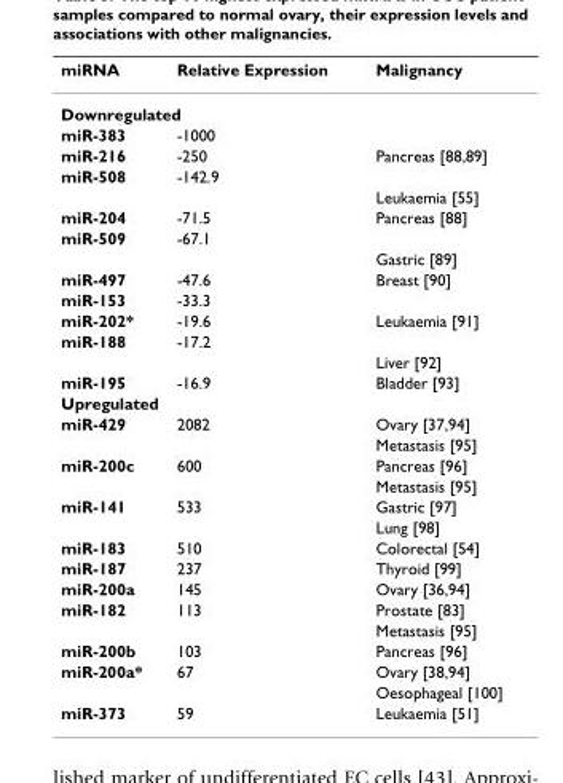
<table><thead><tr><td>miRNA</td><td>Relative Expression</td><td>Malignancy</td></tr></thead><tbody><tr><td colspan="3">Downregulated</td></tr><tr><td>miR-383</td><td>-1000</td><td></td></tr><tr><td>miR-216</td><td>-250</td><td>Pancreas [88,89]</td></tr><tr><td rowspan="2">miR-508</td><td>-142.9</td><td></td></tr><tr><td></td><td>Leukaemia [55]</td></tr><tr><td>miR-204</td><td>-71.5</td><td>Pancreas [88]</td></tr><tr><td rowspan="2">miR-509</td><td>-67.1</td><td></td></tr><tr><td></td><td>Gastric [89]</td></tr><tr><td>miR-497</td><td>-47.6</td><td>Breast [90]</td></tr><tr><td>miR-153</td><td>-33.3</td><td></td></tr><tr><td>miR-202*</td><td>-19.6</td><td>Leukaemia [91]</td></tr><tr><td rowspan="2">miR-188</td><td>-17.2</td><td></td></tr><tr><td></td><td>Liver [92]</td></tr><tr><td>miR-195</td><td>-16.9</td><td>Bladder [93]</td></tr><tr><td colspan="3">Upregulated</td></tr><tr><td rowspan="2">miR-429</td><td>2082</td><td>Ovary [37,94]</td></tr><tr><td></td><td>Metastasis [95]</td></tr><tr><td rowspan="2">miR-200c</td><td>600</td><td>Pancreas [96]</td></tr><tr><td></td><td>Metastasis [95]</td></tr><tr><td rowspan="2">miR-141</td><td>533</td><td>Gastric [97]</td></tr><tr><td></td><td>Lung [98]</td></tr><tr><td>miR-183</td><td>510</td><td>Colorectal [54]</td></tr><tr><td>miR-187</td><td>237</td><td>Thyroid [99]</td></tr><tr><td>miR-200a</td><td>145</td><td>Ovary [36,94]</td></tr><tr><td rowspan="2">miR-182</td><td>113</td><td>Prostate [83]</td></tr><tr><td></td><td>Metastasis [95]</td></tr><tr><td>miR-200b</td><td>103</td><td>Pancreas [96]</td></tr><tr><td rowspan="2">miR-200a*</td><td>67</td><td>Ovary [38,94]</td></tr><tr><td></td><td>Oesophageal [100]</td></tr><tr><td>miR-373</td><td>59</td><td>Leukaemia [51]</td></tr></tbody></table>